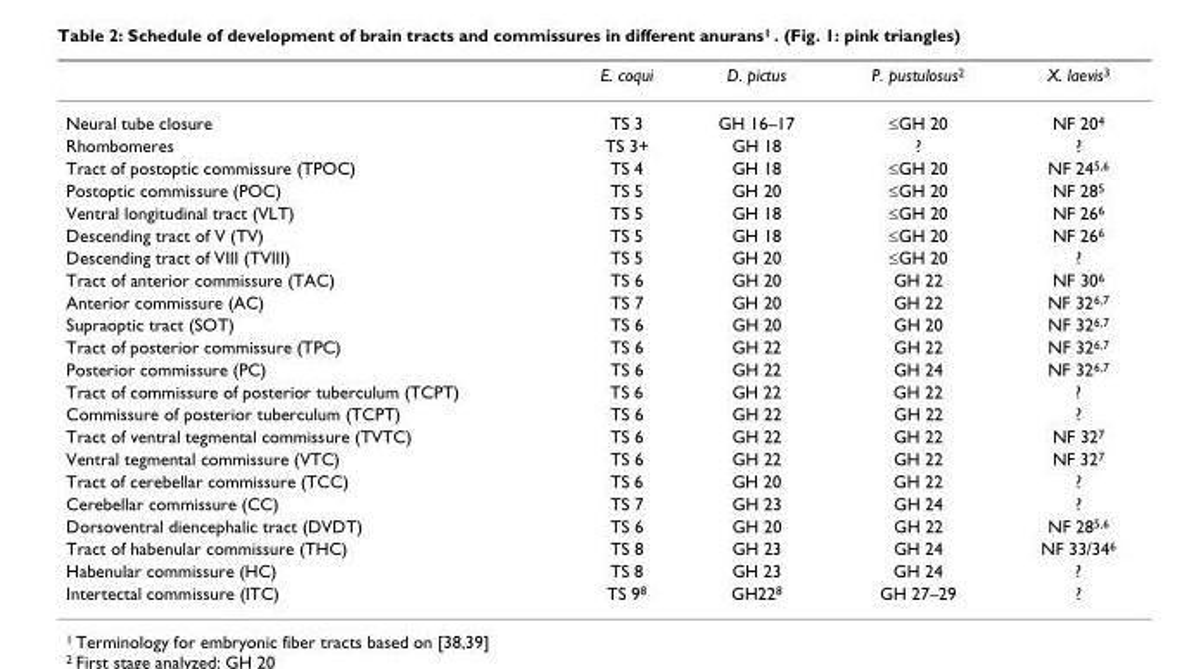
<table><thead><tr><td></td><td>E. coqui</td><td>D. pictus</td><td>P. pustulosus<sup>2</sup></td><td>X. laevis<sup>3</sup></td></tr></thead><tbody><tr><td>Neural tube closure</td><td>TS 3</td><td>GH 16–17</td><td>≤GH 20</td><td>NF 20<sup>4</sup></td></tr><tr><td>Rhombomeres</td><td>TS 3+</td><td>GH 18</td><td>?</td><td>?</td></tr><tr><td>Tract of postoptic commissure (TPOC)</td><td>TS 4</td><td>GH 18</td><td>≤GH 20</td><td>NF 24<sup>5,6</sup></td></tr><tr><td>Postoptic commissure (POC)</td><td>TS 5</td><td>GH 20</td><td>≤GH 20</td><td>NF 28<sup>5</sup></td></tr><tr><td>Ventral longitudinal tract (VLT)</td><td>TS 5</td><td>GH 18</td><td>≤GH 20</td><td>NF 26<sup>6</sup></td></tr><tr><td>Descending tract of V (TV)</td><td>TS 5</td><td>GH 18</td><td>≤GH 20</td><td>NF 26<sup>6</sup></td></tr><tr><td>Descending tract of VIII (TVIII)</td><td>TS 5</td><td>GH 20</td><td>≤GH 20</td><td>?</td></tr><tr><td>Tract of anterior commissure (TAC)</td><td>TS 6</td><td>GH 20</td><td>GH 22</td><td>NF 30<sup>6</sup></td></tr><tr><td>Anterior commissure (AC)</td><td>TS 7</td><td>GH 20</td><td>GH 22</td><td>NF 32<sup>6,7</sup></td></tr><tr><td>Supraoptic tract (SOT)</td><td>TS 6</td><td>GH 20</td><td>GH 20</td><td>NF 32<sup>6,7</sup></td></tr><tr><td>Tract of posterior commissure (TPC)</td><td>TS 6</td><td>GH 22</td><td>GH 22</td><td>NF 32<sup>6,7</sup></td></tr><tr><td>Posterior commissure (PC)</td><td>TS 6</td><td>GH 22</td><td>GH 24</td><td>NF 32<sup>6,7</sup></td></tr><tr><td>Tract of commissure of posterior tuberculum (TCPT)</td><td>TS 6</td><td>GH 22</td><td>GH 22</td><td>?</td></tr><tr><td>Commissure of posterior tuberculum (TCPT)</td><td>TS 6</td><td>GH 22</td><td>GH 22</td><td>?</td></tr><tr><td>Tract of ventral tegmental commissure (TVTC)</td><td>TS 6</td><td>GH 22</td><td>GH 22</td><td>NF 32<sup>7</sup></td></tr><tr><td>Ventral tegmental commissure (VTC)</td><td>TS 6</td><td>GH 22</td><td>GH 22</td><td>NF 32<sup>7</sup></td></tr><tr><td>Tract of cerebellar commissure (TCC)</td><td>TS 6</td><td>GH 20</td><td>GH 22</td><td>?</td></tr><tr><td>Cerebellar commissure (CC)</td><td>TS 7</td><td>GH 23</td><td>GH 24</td><td>?</td></tr><tr><td>Dorsoventral diencephalic tract (DVDT)</td><td>TS 6</td><td>GH 20</td><td>GH 22</td><td>NF 28<sup>5,6</sup></td></tr><tr><td>Tract of habenular commissure (THC)</td><td>TS 8</td><td>GH 23</td><td>GH 24</td><td>NF 33/34<sup>6</sup></td></tr><tr><td>Habenular commissure (HC)</td><td>TS 8</td><td>GH 23</td><td>GH 24</td><td>?</td></tr><tr><td>Intertectal commissure (ITC)</td><td>TS 9<sup>8</sup></td><td>GH22<sup>8</sup></td><td>GH 27–29</td><td>?</td></tr></tbody></table>